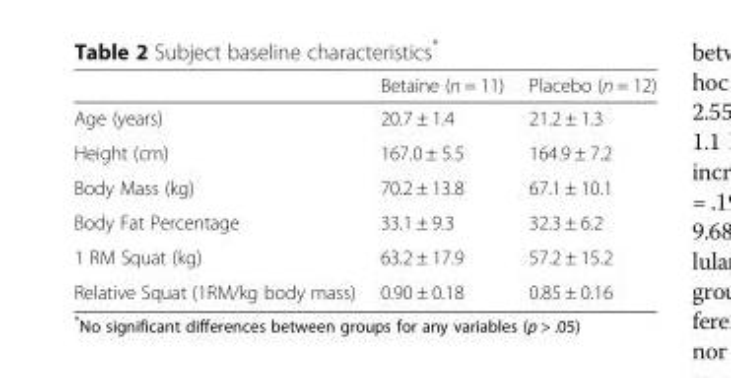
<table><thead><tr><td></td><td>Betaine (n = 11)</td><td>Placebo (n = 12)</td></tr></thead><tbody><tr><td>Age (years)</td><td>20.7 ± 1.4</td><td>21.2 ± 1.3</td></tr><tr><td>Height (cm)</td><td>167.0 ± 5.5</td><td>164.9 ± 7.2</td></tr><tr><td>Body Mass (kg)</td><td>70.2 ± 13.8</td><td>67.1 ± 10.1</td></tr><tr><td>Body Fat Percentage</td><td>33.1 ± 9.3</td><td>32.3 ± 6.2</td></tr><tr><td>1 RM Squat (kg)</td><td>63.2 ± 17.9</td><td>57.2 ± 15.2</td></tr><tr><td>Relative Squat (1RM/kg body mass)</td><td>0.90 ± 0.18</td><td>0.85 ± 0.16</td></tr></tbody></table>